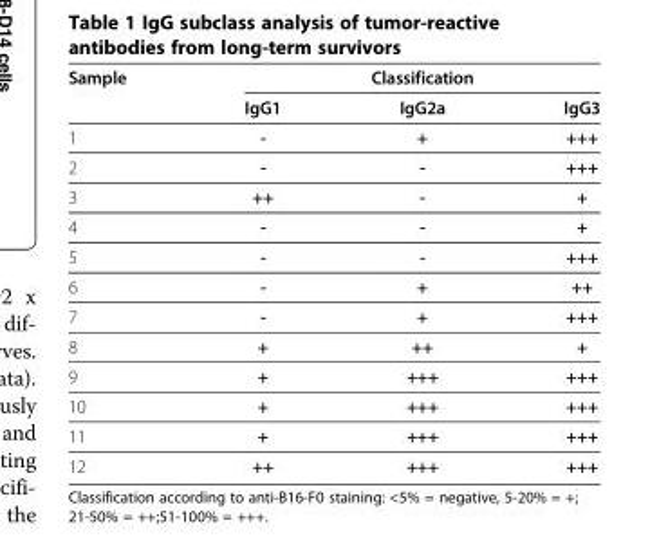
<table><thead><tr><td rowspan="2">Sample</td><td colspan="3">Classification</td></tr><tr><td>IgG1</td><td>IgG2a</td><td>IgG3</td></tr></thead><tbody><tr><td>1</td><td>-</td><td>+</td><td>+++</td></tr><tr><td>2</td><td>-</td><td>-</td><td>+++</td></tr><tr><td>3</td><td>++</td><td>-</td><td>+</td></tr><tr><td>4</td><td>-</td><td>-</td><td>+</td></tr><tr><td>5</td><td>-</td><td>-</td><td>+++</td></tr><tr><td>6</td><td>-</td><td>+</td><td>++</td></tr><tr><td>7</td><td>-</td><td>+</td><td>+++</td></tr><tr><td>8</td><td>+</td><td>++</td><td>+</td></tr><tr><td>9</td><td>+</td><td>+++</td><td>+++</td></tr><tr><td>10</td><td>+</td><td>+++</td><td>+++</td></tr><tr><td>11</td><td>+</td><td>+++</td><td>+++</td></tr><tr><td>12</td><td>++</td><td>+++</td><td>+++</td></tr></tbody></table>